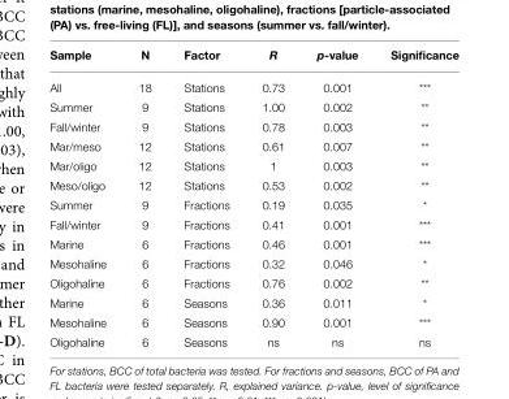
<table><thead><tr><td>Sample</td><td>N</td><td>Factor</td><td>R</td><td>p-value</td><td>Significance</td></tr></thead><tbody><tr><td>All</td><td>18</td><td>Stations</td><td>0.73</td><td>0.001</td><td>***</td></tr><tr><td>Summer</td><td>9</td><td>Stations</td><td>1.00</td><td>0.002</td><td>**</td></tr><tr><td>Fall/winter</td><td>9</td><td>Stations</td><td>0.78</td><td>0.003</td><td>**</td></tr><tr><td>Mar/meso</td><td>12</td><td>Stations</td><td>0.61</td><td>0.007</td><td>**</td></tr><tr><td>Mar/oligo</td><td>12</td><td>Stations</td><td>1</td><td>0.003</td><td>**</td></tr><tr><td>Meso/oligo</td><td>12</td><td>Stations</td><td>0.53</td><td>0.002</td><td>**</td></tr><tr><td>Summer</td><td>9</td><td>Fractions</td><td>0.19</td><td>0.035</td><td>*</td></tr><tr><td>Fall/winter</td><td>9</td><td>Fractions</td><td>0.41</td><td>0.001</td><td>***</td></tr><tr><td>Marine</td><td>6</td><td>Fractions</td><td>0.46</td><td>0.001</td><td>***</td></tr><tr><td>Mesohaline</td><td>6</td><td>Fractions</td><td>0.32</td><td>0.046</td><td>*</td></tr><tr><td>Oligohaline</td><td>6</td><td>Fractions</td><td>0.76</td><td>0.002</td><td>**</td></tr><tr><td>Marine</td><td>6</td><td>Seasons</td><td>0.36</td><td>0.011</td><td>*</td></tr><tr><td>Mesohaline</td><td>6</td><td>Seasons</td><td>0.90</td><td>0.001</td><td>***</td></tr><tr><td>Oligohaline</td><td>6</td><td>Seasons</td><td>ns</td><td>ns</td><td>ns</td></tr></tbody></table>